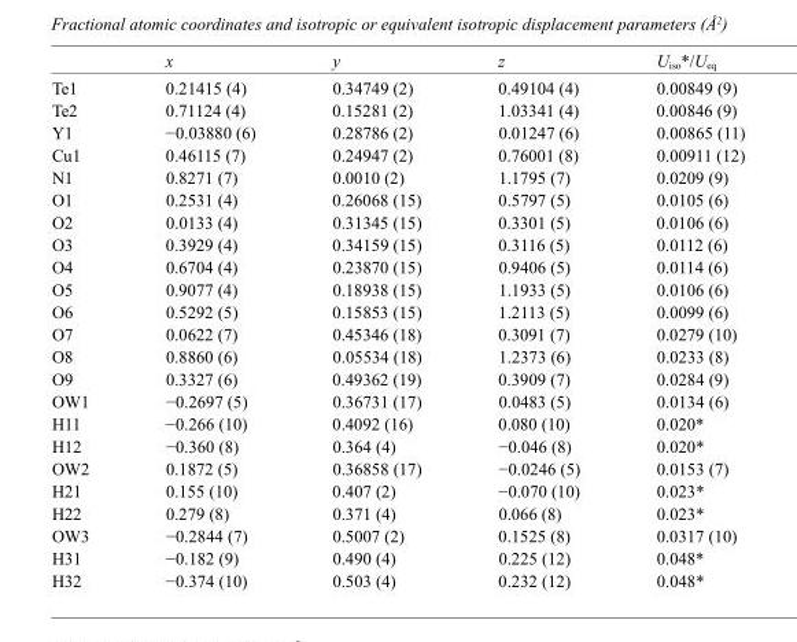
<table><thead><tr><td></td><td>x</td><td>y</td><td>z</td><td>U<sub>iso</sub>*/U<sub>eq</sub></td></tr></thead><tbody><tr><td>Te1</td><td>0.21415 (4)</td><td>0.34749 (2)</td><td>0.49104 (4)</td><td>0.00849 (9)</td></tr><tr><td>Te2</td><td>0.71124 (4)</td><td>0.15281 (2)</td><td>1.03341 (4)</td><td>0.00846 (9)</td></tr><tr><td>Y1</td><td>−0.03880 (6)</td><td>0.28786 (2)</td><td>0.01247 (6)</td><td>0.00865 (11)</td></tr><tr><td>Cu1</td><td>0.46115 (7)</td><td>0.24947 (2)</td><td>0.76001 (8)</td><td>0.00911 (12)</td></tr><tr><td>N1</td><td>0.8271 (7)</td><td>0.0010 (2)</td><td>1.1795 (7)</td><td>0.0209 (9)</td></tr><tr><td>O1</td><td>0.2531 (4)</td><td>0.26068 (15)</td><td>0.5797 (5)</td><td>0.0105 (6)</td></tr><tr><td>O2</td><td>0.0133 (4)</td><td>0.31345 (15)</td><td>0.3301 (5)</td><td>0.0106 (6)</td></tr><tr><td>O3</td><td>0.3929 (4)</td><td>0.34159 (15)</td><td>0.3116 (5)</td><td>0.0112 (6)</td></tr><tr><td>O4</td><td>0.6704 (4)</td><td>0.23870 (15)</td><td>0.9406 (5)</td><td>0.0114 (6)</td></tr><tr><td>O5</td><td>0.9077 (4)</td><td>0.18938 (15)</td><td>1.1933 (5)</td><td>0.0106 (6)</td></tr><tr><td>O6</td><td>0.5292 (5)</td><td>0.15853 (15)</td><td>1.2113 (5)</td><td>0.0099 (6)</td></tr><tr><td>O7</td><td>0.0622 (7)</td><td>0.45346 (18)</td><td>0.3091 (7)</td><td>0.0279 (10)</td></tr><tr><td>O8</td><td>0.8860 (6)</td><td>0.05534 (18)</td><td>1.2373 (6)</td><td>0.0233 (8)</td></tr><tr><td>O9</td><td>0.3327 (6)</td><td>0.49362 (19)</td><td>0.3909 (7)</td><td>0.0284 (9)</td></tr><tr><td>OW1</td><td>−0.2697 (5)</td><td>0.36731 (17)</td><td>0.0483 (5)</td><td>0.0134 (6)</td></tr><tr><td>H11</td><td>−0.266 (10)</td><td>0.4092 (16)</td><td>0.080 (10)</td><td>0.020*</td></tr><tr><td>H12</td><td>−0.360 (8)</td><td>0.364 (4)</td><td>−0.046 (8)</td><td>0.020*</td></tr><tr><td>OW2</td><td>0.1872 (5)</td><td>0.36858 (17)</td><td>−0.0246 (5)</td><td>0.0153 (7)</td></tr><tr><td>H21</td><td>0.155 (10)</td><td>0.407 (2)</td><td>−0.070 (10)</td><td>0.023*</td></tr><tr><td>H22</td><td>0.279 (8)</td><td>0.371 (4)</td><td>0.066 (8)</td><td>0.023*</td></tr><tr><td>OW3</td><td>−0.2844 (7)</td><td>0.5007 (2)</td><td>0.1525 (8)</td><td>0.0317 (10)</td></tr><tr><td>H31</td><td>−0.182 (9)</td><td>0.490 (4)</td><td>0.225 (12)</td><td>0.048*</td></tr><tr><td>H32</td><td>−0.374 (10)</td><td>0.503 (4)</td><td>0.232 (12)</td><td>0.048*</td></tr></tbody></table>